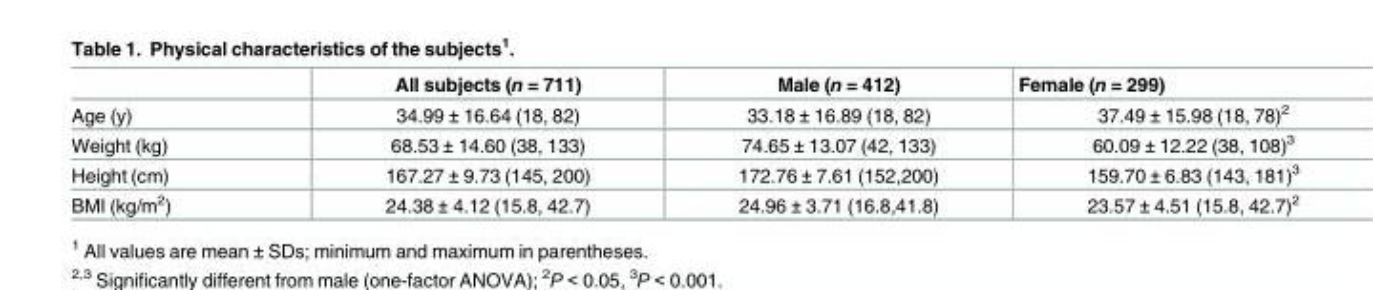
<table><thead><tr><td></td><td>All subjects (n = 711)</td><td>Male (n = 412)</td><td>Female (n = 299)</td></tr></thead><tbody><tr><td>Age (y)</td><td>34.99 ± 16.64 (18, 82)</td><td>33.18 ± 16.89 (18, 82)</td><td>37.49 ± 15.98 (18, 78)<sup>2</sup></td></tr><tr><td>Weight (kg)</td><td>68.53 ± 14.60 (38, 133)</td><td>74.65 ± 13.07 (42, 133)</td><td>60.09 ± 12.22 (38, 108)<sup>3</sup></td></tr><tr><td>Height (cm)</td><td>167.27 ± 9.73 (145, 200)</td><td>172.76 ± 7.61 (152,200)</td><td>159.70 ± 6.83 (143, 181)<sup>3</sup></td></tr><tr><td>BMI (kg/m<sup>2</sup>)</td><td>24.38 ± 4.12 (15.8, 42.7)</td><td>24.96 ± 3.71 (16.8,41.8)</td><td>23.57 ± 4.51 (15.8, 42.7)<sup>2</sup></td></tr></tbody></table>